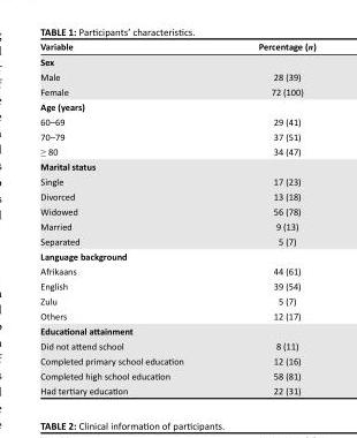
<table><thead><tr><td>Variable</td><td>Percentage (n)</td></tr></thead><tbody><tr><td colspan="2">Sex</td></tr><tr><td>Male</td><td>28 (39)</td></tr><tr><td>Female</td><td>72 (100)</td></tr><tr><td colspan="2">Age (years)</td></tr><tr><td>60–69</td><td>29 (41)</td></tr><tr><td>70–79</td><td>37 (51)</td></tr><tr><td>≥ 80</td><td>34 (47)</td></tr><tr><td colspan="2">Marital status</td></tr><tr><td>Single</td><td>17 (23)</td></tr><tr><td>Divorced</td><td>13 (18)</td></tr><tr><td>Widowed</td><td>56 (78)</td></tr><tr><td>Married</td><td>9 (13)</td></tr><tr><td>Separated</td><td>5 (7)</td></tr><tr><td colspan="2">Language background</td></tr><tr><td>Afrikaans</td><td>44 (61)</td></tr><tr><td>English</td><td>39 (54)</td></tr><tr><td>Zulu</td><td>5 (7)</td></tr><tr><td>Others</td><td>12 (17)</td></tr><tr><td colspan="2">Educational attainment</td></tr><tr><td>Did not attend school</td><td>8 (11)</td></tr><tr><td>Completed primary school education</td><td>12 (16)</td></tr><tr><td>Completed high school education</td><td>58 (81)</td></tr><tr><td>Had tertiary education</td><td>22 (31)</td></tr></tbody></table>